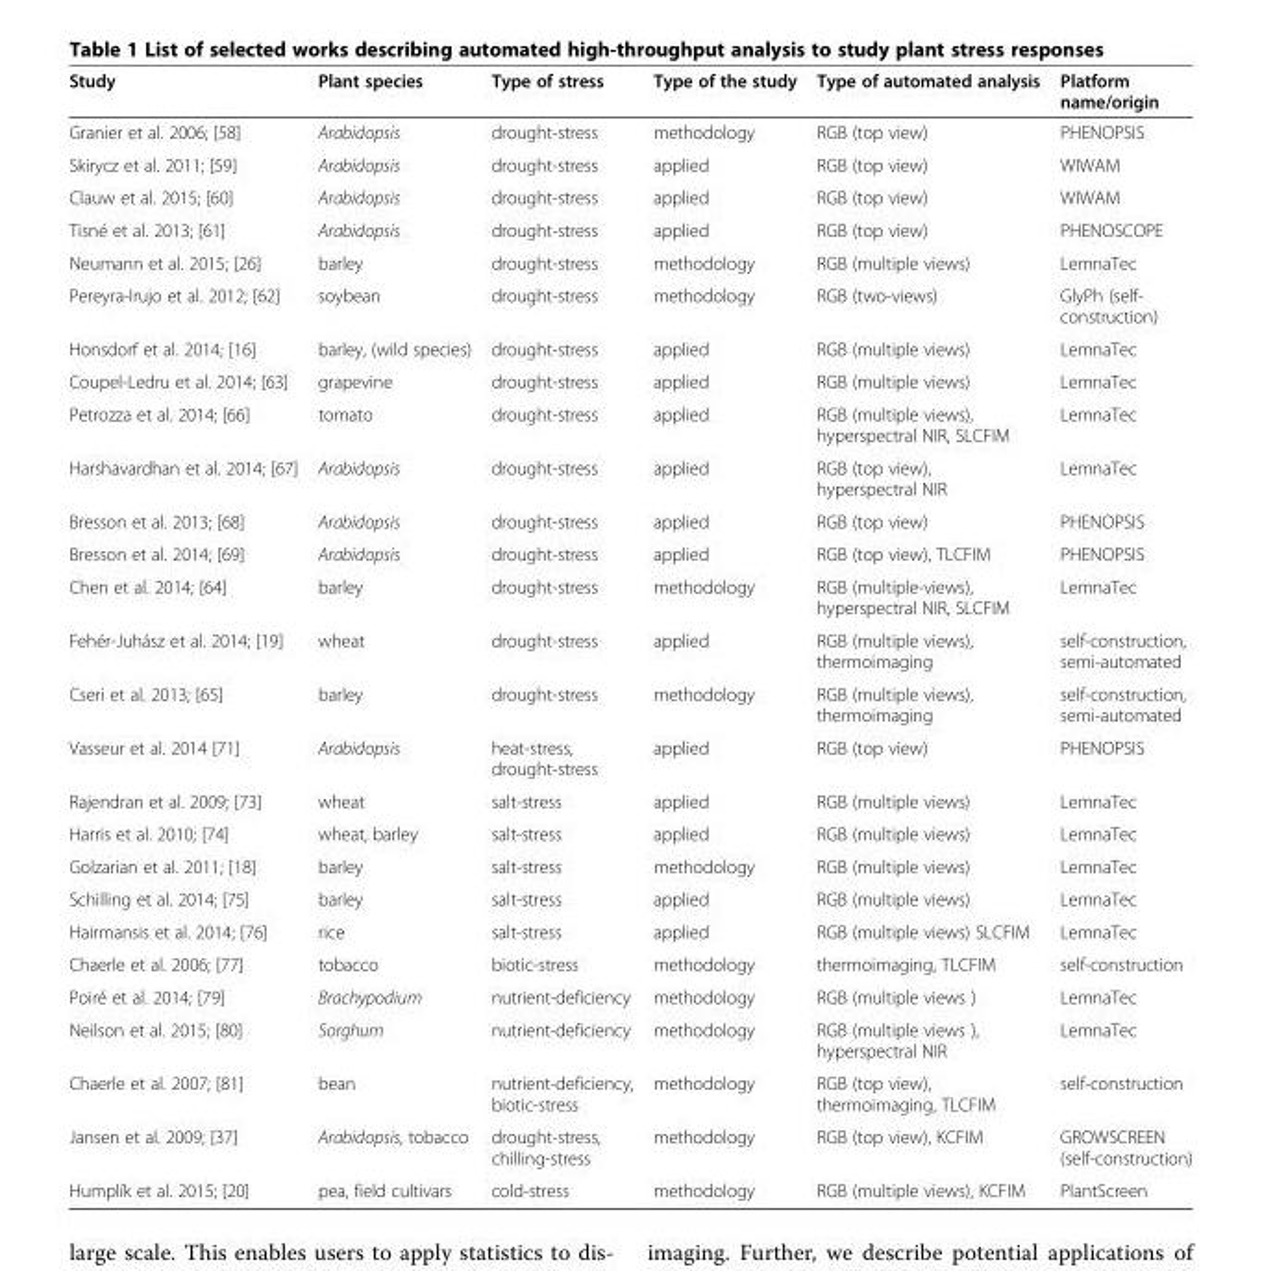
<table><thead><tr><td>Study</td><td>Plant species</td><td>Type of stress</td><td>Type of the study</td><td>Type of automated analysis</td><td>Platform name/origin</td></tr></thead><tbody><tr><td>Granier et al. 2006; [58]</td><td>Arabidopsis</td><td>drought-stress</td><td>methodology</td><td>RGB (top view)</td><td>PHENOPSIS</td></tr><tr><td>Skirycz et al. 2011; [59]</td><td>Arabidopsis</td><td>drought-stress</td><td>applied</td><td>RGB (top view)</td><td>WIWAM</td></tr><tr><td>Clauw et al. 2015; [60]</td><td>Arabidopsis</td><td>drought-stress</td><td>applied</td><td>RGB (top view)</td><td>WIWAM</td></tr><tr><td>Tisné et al. 2013; [61]</td><td>Arabidopsis</td><td>drought-stress</td><td>applied</td><td>RGB (top view)</td><td>PHENOSCOPE</td></tr><tr><td>Neumann et al. 2015; [26]</td><td>barley</td><td>drought-stress</td><td>methodology</td><td>RGB (multiple views)</td><td>LemnaTec</td></tr><tr><td>Pereyra-Irujo et al. 2012; [62]</td><td>soybean</td><td>drought-stress</td><td>methodology</td><td>RGB (two-views)</td><td>GlyPh (self- construction)</td></tr><tr><td>Honsdorf et al. 2014; [16]</td><td>barley, (wild species)</td><td>drought-stress</td><td>applied</td><td>RGB (multiple views)</td><td>LemnaTec</td></tr><tr><td>Coupel-Ledru et al. 2014; [63]</td><td>grapevine</td><td>drought-stress</td><td>applied</td><td>RGB (multiple views)</td><td>LemnaTec</td></tr><tr><td>Petrozza et al. 2014; [66]</td><td>tomato</td><td>drought-stress</td><td>applied</td><td>RGB (multiple views), hyperspectral NIR, SLCFIM</td><td>LemnaTec</td></tr><tr><td>Harshavardhan et al. 2014; [67]</td><td>Arabidopsis</td><td>drought-stress</td><td>applied</td><td>RGB (top view), hyperspectral NIR</td><td>LemnaTec</td></tr><tr><td>Bresson et al. 2013; [68]</td><td>Arabidopsis</td><td>drought-stress</td><td>applied</td><td>RGB (top view)</td><td>PHENOPSIS</td></tr><tr><td>Bresson et al. 2014; [69]</td><td>Arabidopsis</td><td>drought-stress</td><td>applied</td><td>RGB (top view), TLCFIM</td><td>PHENOPSIS</td></tr><tr><td>Chen et al. 2014; [64]</td><td>barley</td><td>drought-stress</td><td>methodology</td><td>RGB (multiple-views), hyperspectral NIR, SLCFIM</td><td>LemnaTec</td></tr><tr><td>Fehér-Juhász et al. 2014; [19]</td><td>wheat</td><td>drought-stress</td><td>applied</td><td>RGB (multiple views), thermoimaging</td><td>self-construction, semi-automated</td></tr><tr><td>Cseri et al. 2013; [65]</td><td>barley</td><td>drought-stress</td><td>methodology</td><td>RGB (multiple views), thermoimaging</td><td>self-construction, semi-automated</td></tr><tr><td>Vasseur et al. 2014 [71]</td><td>Arabidopsis</td><td>heat-stress, drought-stress</td><td>applied</td><td>RGB (top view)</td><td>PHENOPSIS</td></tr><tr><td>Rajendran et al. 2009; [73]</td><td>wheat</td><td>salt-stress</td><td>applied</td><td>RGB (multiple views)</td><td>LemnaTec</td></tr><tr><td>Harris et al. 2010; [74]</td><td>wheat, barley</td><td>salt-stress</td><td>applied</td><td>RGB (multiple views)</td><td>LemnaTec</td></tr><tr><td>Golzarian et al. 2011; [18]</td><td>barley</td><td>salt-stress</td><td>methodology</td><td>RGB (multiple views)</td><td>LemnaTec</td></tr><tr><td>Schilling et al. 2014; [75]</td><td>barley</td><td>salt-stress</td><td>applied</td><td>RGB (multiple views)</td><td>LemnaTec</td></tr><tr><td>Hairmansis et al. 2014; [76]</td><td>rice</td><td>salt-stress</td><td>applied</td><td>RGB (multiple views) SLCFIM</td><td>LemnaTec</td></tr><tr><td>Chaerle et al. 2006; [77]</td><td>tobacco</td><td>biotic-stress</td><td>methodology</td><td>thermoimaging, TLCFIM</td><td>self-construction</td></tr><tr><td>Poiré et al. 2014; [79]</td><td>Brachypodium</td><td>nutrient-deficiency</td><td>methodology</td><td>RGB (multiple views )</td><td>LemnaTec</td></tr><tr><td>Neilson et al. 2015; [80]</td><td>Sorghum</td><td>nutrient-deficiency</td><td>methodology</td><td>RGB (multiple views ), hyperspectral NIR</td><td>LemnaTec</td></tr><tr><td>Chaerle et al. 2007; [81]</td><td>bean</td><td>nutrient-deficiency, biotic-stress</td><td>methodology</td><td>RGB (top view), thermoimaging, TLCFIM</td><td>self-construction</td></tr><tr><td>Jansen et al. 2009; [37]</td><td>Arabidopsis, tobacco</td><td>drought-stress, chilling-stress</td><td>methodology</td><td>RGB (top view), KCFIM</td><td>GROWSCREEN (self-construction)</td></tr><tr><td>Humplík et al. 2015; [20]</td><td>pea, field cultivars</td><td>cold-stress</td><td>methodology</td><td>RGB (multiple views), KCFIM</td><td>PlantScreen</td></tr></tbody></table>